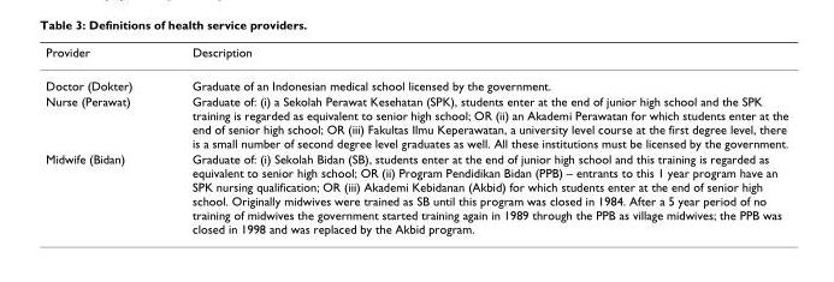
<table><thead><tr><td>Provider</td><td>Description</td></tr></thead><tbody><tr><td>Doctor (Dokter)</td><td>Graduate of an Indonesian medical school licensed by the government.</td></tr><tr><td>Nurse (Perawat)</td><td>Graduate of: (i) a Sekolah Perawat Kesehatan (SPK), students enter at the end of junior high school and the SPK training is regarded as equivalent to senior high school; OR (ii) an Akademi Perawatan for which students enter at the end of senior high school; OR (iii) Fakultas Ilmu Keperawatan, a university level course at the first degree level, there is a small number of second degree level graduates as well. All these institutions must be licensed by the government.</td></tr><tr><td>Midwife (Bidan)</td><td>Graduate of: (i) Sekolah Bidan (SB), students enter at the end of junior high school and this training is regarded as equivalent to senior high school; OR (ii) Program Pendidikan Bidan (PPB) – entrants to this 1 year program have an SPK nursing qualification; OR (iii) Akademi Kebidanan (Akbid) for which students enter at the end of senior high school. Originally midwives were trained as SB until this program was closed in 1984. After a 5 year period of no training of midwives the government started training again in 1989 through the PPB as village midwives; the PPB was closed in 1998 and was replaced by the Akbid program.</td></tr></tbody></table>